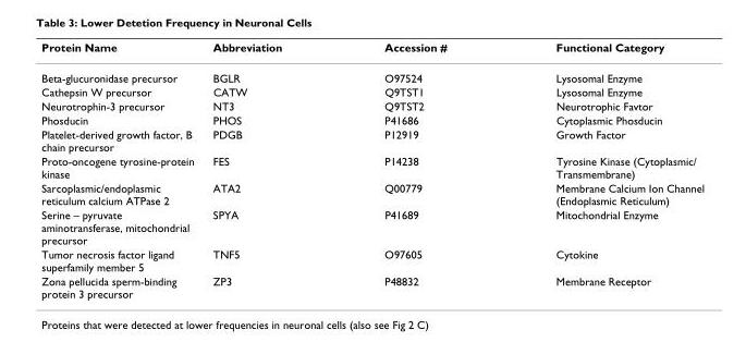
<table><thead><tr><td>Protein Name</td><td>Abbreviation</td><td>Accession #</td><td>Functional Category</td></tr></thead><tbody><tr><td>Beta-glucuronidase precursor</td><td>BGLR</td><td>O97524</td><td>Lysosomal Enzyme</td></tr><tr><td>Cathepsin W precursor</td><td>CATW</td><td>Q9TST1</td><td>Lysosomal Enzyme</td></tr><tr><td>Neurotrophin-3 precursor</td><td>NT3</td><td>Q9TST2</td><td>Neurotrophic Favtor</td></tr><tr><td>Phosducin</td><td>PHOS</td><td>P41686</td><td>Cytoplasmic Phosducin</td></tr><tr><td>Platelet-derived growth factor, B chain precursor</td><td>PDGB</td><td>P12919</td><td>Growth Factor</td></tr><tr><td>Proto-oncogene tyrosine-protein kinase</td><td>FES</td><td>P14238</td><td>Tyrosine Kinase (Cytoplasmic/ Transmembrane)</td></tr><tr><td>Sarcoplasmic/endoplasmic reticulum calcium ATPase 2</td><td>ATA2</td><td>Q00779</td><td>Membrane Calcium Ion Channel (Endoplasmic Reticulum)</td></tr><tr><td>Serine – pyruvate aminotransferase, mitochondrial precursor</td><td>SPYA</td><td>P41689</td><td>Mitochondrial Enzyme</td></tr><tr><td>Tumor necrosis factor ligand superfamily member 5</td><td>TNF5</td><td>O97605</td><td>Cytokine</td></tr><tr><td>Zona pellucida sperm-binding protein 3 precursor</td><td>ZP3</td><td>P48832</td><td>Membrane Receptor</td></tr></tbody></table>